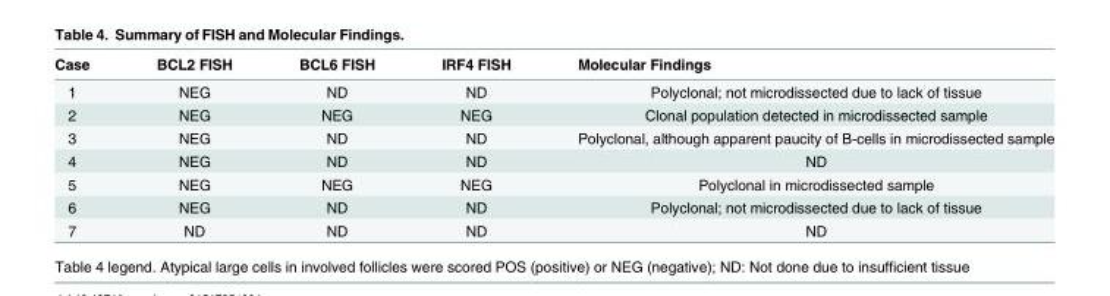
<table><thead><tr><td>Case</td><td>BCL2 FISH</td><td>BCL6 FISH</td><td>IRF4 FISH</td><td>Molecular Findings</td></tr></thead><tbody><tr><td>1</td><td>NEG</td><td>ND</td><td>ND</td><td>Polyclonal; not microdissected due to lack of tissue</td></tr><tr><td>2</td><td>NEG</td><td>NEG</td><td>NEG</td><td>Clonal population detected in microdissected sample</td></tr><tr><td>3</td><td>NEG</td><td>ND</td><td>ND</td><td>Polyclonal, although apparent paucity of B-cells in microdissected sample</td></tr><tr><td>4</td><td>NEG</td><td>ND</td><td>ND</td><td>ND</td></tr><tr><td>5</td><td>NEG</td><td>NEG</td><td>NEG</td><td>Polyclonal in microdissected sample</td></tr><tr><td>6</td><td>NEG</td><td>ND</td><td>ND</td><td>Polyclonal; not microdissected due to lack of tissue</td></tr><tr><td>7</td><td>ND</td><td>ND</td><td>ND</td><td>ND</td></tr></tbody></table>